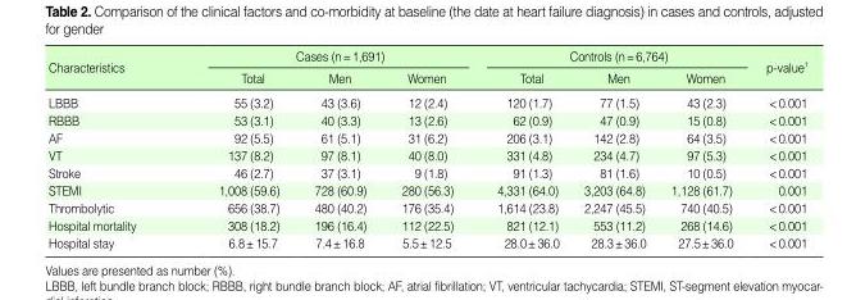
<table><thead><tr><td rowspan="2">Characteristics</td><td colspan="3">Cases (n=1,691)</td><td colspan="3">Controls (n=6,764)</td><td rowspan="2">p-value<sup>1</sup></td></tr><tr><td>Total</td><td>Men</td><td>Women</td><td>Total</td><td>Men</td><td>Women</td></tr></thead><tbody><tr><td>LBBB</td><td>55 (3.2)</td><td>43 (3.6)</td><td>12 (2.4)</td><td>120 (1.7)</td><td>77 (1.5)</td><td>43 (2.3)</td><td>&lt;0.001</td></tr><tr><td>RBBB</td><td>53 (3.1)</td><td>40 (3.3)</td><td>13 (2.6)</td><td>62 (0.9)</td><td>47 (0.9)</td><td>15 (0.8)</td><td>&lt;0.001</td></tr><tr><td>AF</td><td>92 (5.5)</td><td>61 (5.1)</td><td>31 (6.2)</td><td>206 (3.1)</td><td>142 (2.8)</td><td>64 (3.5)</td><td>&lt;0.001</td></tr><tr><td>VT</td><td>137 (8.2)</td><td>97 (8.1)</td><td>40 (8.0)</td><td>331 (4.8)</td><td>234 (4.7)</td><td>97 (5.3)</td><td>&lt;0.001</td></tr><tr><td>Stroke</td><td>46 (2.7)</td><td>37 (3.1)</td><td>9 (1.8)</td><td>91 (1.3)</td><td>81 (1.6)</td><td>10 (0.5)</td><td>&lt;0.001</td></tr><tr><td>STEMI</td><td>1,008 (59.6)</td><td>728 (60.9)</td><td>280 (56.3)</td><td>4,331 (64.0)</td><td>3,203 (64.8)</td><td>1,128 (61.7)</td><td>0.001</td></tr><tr><td>Thrombolytic</td><td>656 (38.7)</td><td>480 (40.2)</td><td>176 (35.4)</td><td>1,614 (23.8)</td><td>2,247 (45.5)</td><td>740 (40.5)</td><td>&lt;0.001</td></tr><tr><td>Hospital mortality</td><td>308 (18.2)</td><td>196 (16.4)</td><td>112 (22.5)</td><td>821 (12.1)</td><td>553 (11.2)</td><td>268 (14.6)</td><td>&lt;0.001</td></tr><tr><td>Hospital stay</td><td>6.8±15.7</td><td>7.4±16.8</td><td>5.5±12.5</td><td>28.0±36.0</td><td>28.3±36.0</td><td>27.5±36.0</td><td>&lt;0.001</td></tr></tbody></table>